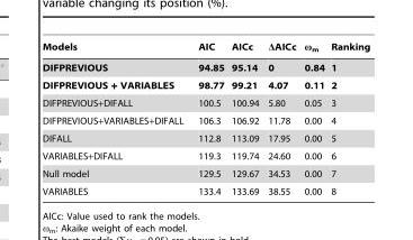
<table><thead><tr><td>Models</td><td>AIC</td><td>AICc</td><td>ΔAICc</td><td>ω<sub>m</sub></td><td>Ranking</td></tr></thead><tbody><tr><td>DIFPREVIOUS</td><td>94.85</td><td>95.14</td><td>0</td><td>0.84</td><td>1</td></tr><tr><td>DIFPREVIOUS + VARIABLES</td><td>98.77</td><td>99.21</td><td>4.07</td><td>0.11</td><td>2</td></tr><tr><td>DIFPREVIOUS+DIFALL</td><td>100.5</td><td>100.94</td><td>5.80</td><td>0.05</td><td>3</td></tr><tr><td>DIFPREVIOUS+VARIABLES+DIFALL</td><td>106.3</td><td>106.92</td><td>11.78</td><td>0.00</td><td>4</td></tr><tr><td>DIFALL</td><td>112.8</td><td>113.09</td><td>17.95</td><td>0.00</td><td>5</td></tr><tr><td>VARIABLES+DIFALL</td><td>119.3</td><td>119.74</td><td>24.60</td><td>0.00</td><td>6</td></tr><tr><td>Null model</td><td>129.5</td><td>129.67</td><td>34.53</td><td>0.00</td><td>7</td></tr><tr><td>VARIABLES</td><td>133.4</td><td>133.69</td><td>38.55</td><td>0.00</td><td>8</td></tr></tbody></table>